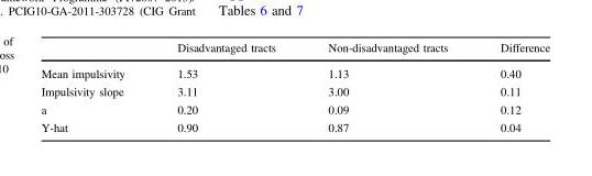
<table><thead><tr><td></td><td>Disadvantaged tracts</td><td>Non-disadvantaged tracts</td><td>Difference</td></tr></thead><tbody><tr><td>Mean impulsivity</td><td>1.53</td><td>1.13</td><td>0.40</td></tr><tr><td>Impulsivity slope</td><td>3.11</td><td>3.00</td><td>0.11</td></tr><tr><td>a</td><td>0.20</td><td>0.09</td><td>0.12</td></tr><tr><td>Y-hat</td><td>0.90</td><td>0.87</td><td>0.04</td></tr></tbody></table>